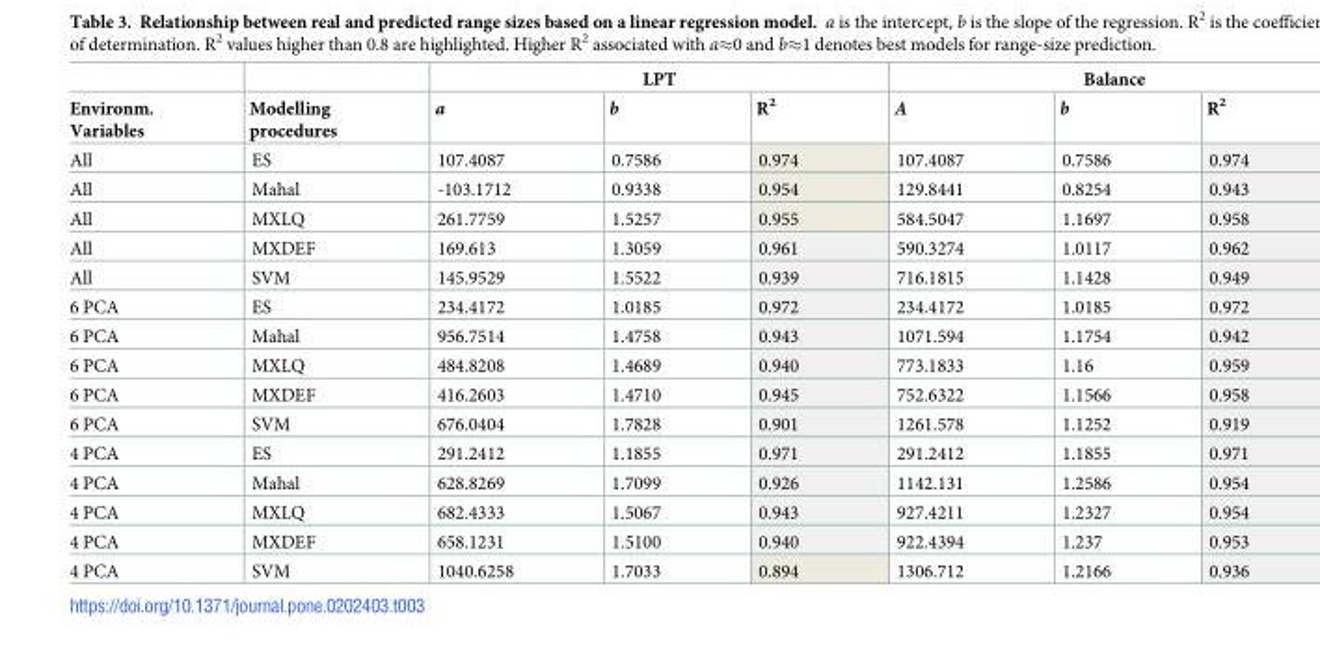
<table><thead><tr><td rowspan="2">Environm. Variables</td><td rowspan="2">Modelling procedures</td><td colspan="3">LPT</td><td colspan="3">Balance</td></tr><tr><td>a</td><td>b</td><td>R<sup>2</sup></td><td>A</td><td>b</td><td>R<sup>2</sup></td></tr></thead><tbody><tr><td>All</td><td>ES</td><td>107.4087</td><td>0.7586</td><td>0.974</td><td>107.4087</td><td>0.7586</td><td>0.974</td></tr><tr><td>All</td><td>Mahal</td><td>-103.1712</td><td>0.9338</td><td>0.954</td><td>129.8441</td><td>0.8254</td><td>0.943</td></tr><tr><td>All</td><td>MXLQ</td><td>261.7759</td><td>1.5257</td><td>0.955</td><td>584.5047</td><td>1.1697</td><td>0.958</td></tr><tr><td>All</td><td>MXDEF</td><td>169.613</td><td>1.3059</td><td>0.961</td><td>590.3274</td><td>1.0117</td><td>0.962</td></tr><tr><td>All</td><td>SVM</td><td>145.9529</td><td>1.5522</td><td>0.939</td><td>716.1815</td><td>1.1428</td><td>0.949</td></tr><tr><td>6 PCA</td><td>ES</td><td>234.4172</td><td>1.0185</td><td>0.972</td><td>234.4172</td><td>1.0185</td><td>0.972</td></tr><tr><td>6 PCA</td><td>Mahal</td><td>956.7514</td><td>1.4758</td><td>0.943</td><td>1071.594</td><td>1.1754</td><td>0.942</td></tr><tr><td>6 PCA</td><td>MXLQ</td><td>484.8208</td><td>1.4689</td><td>0.940</td><td>773.1833</td><td>1.16</td><td>0.959</td></tr><tr><td>6 PCA</td><td>MXDEF</td><td>416.2603</td><td>1.4710</td><td>0.945</td><td>752.6322</td><td>1.1566</td><td>0.958</td></tr><tr><td>6 PCA</td><td>SVM</td><td>676.0404</td><td>1.7828</td><td>0.901</td><td>1261.578</td><td>1.1252</td><td>0.919</td></tr><tr><td>4 PCA</td><td>ES</td><td>291.2412</td><td>1.1855</td><td>0.971</td><td>291.2412</td><td>1.1855</td><td>0.971</td></tr><tr><td>4 PCA</td><td>Mahal</td><td>628.8269</td><td>1.7099</td><td>0.926</td><td>1142.131</td><td>1.2586</td><td>0.954</td></tr><tr><td>4 PCA</td><td>MXLQ</td><td>682.4333</td><td>1.5067</td><td>0.943</td><td>927.4211</td><td>1.2327</td><td>0.954</td></tr><tr><td>4 PCA</td><td>MXDEF</td><td>658.1231</td><td>1.5100</td><td>0.940</td><td>922.4394</td><td>1.237</td><td>0.953</td></tr><tr><td>4 PCA</td><td>SVM</td><td>1040.6258</td><td>1.7033</td><td>0.894</td><td>1306.712</td><td>1.2166</td><td>0.936</td></tr></tbody></table>